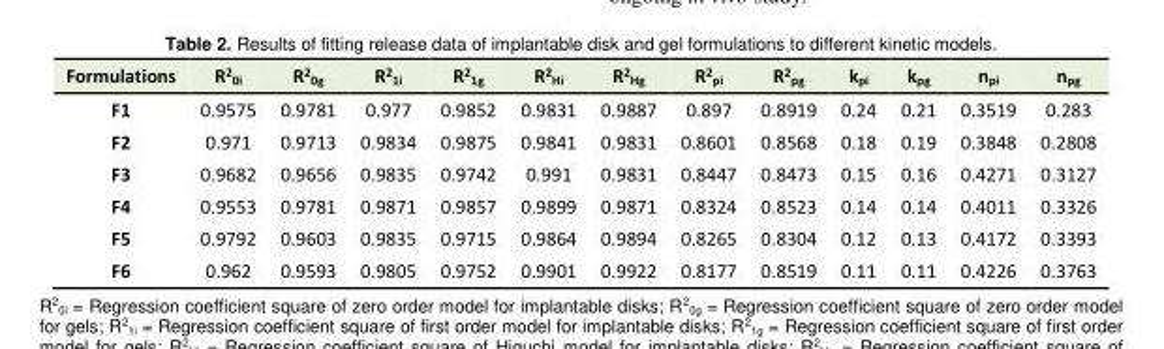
<table><tbody><tr><td>Formulations</td><td>R<sup>2</sup><sub>0i</sub></td><td>R<sup>2</sup><sub>0g</sub></td><td>R<sup>2</sup><sub>1i</sub></td><td>R<sup>2</sup><sub>1g</sub></td><td>R<sup>2</sup><sub>Hi</sub></td><td>R<sup>2</sup><sub>Hg</sub></td><td>R<sup>2</sup><sub>pi</sub></td><td>R<sup>2</sup><sub>pg</sub></td><td>k<sub>pi</sub></td><td>k<sub>pg</sub></td><td>n<sub>pi</sub></td><td>n<sub>pg</sub></td></tr><tr><td>F1</td><td>0.9575</td><td>0.9781</td><td>0.977</td><td>0.9852</td><td>0.9831</td><td>0.9887</td><td>0.897</td><td>0.8919</td><td>0.24</td><td>0.21</td><td>0.3519</td><td>0.283</td></tr><tr><td>F2</td><td>0.971</td><td>0.9713</td><td>0.9834</td><td>0.9875</td><td>0.9841</td><td>0.9831</td><td>0.8601</td><td>0.8568</td><td>0.18</td><td>0.19</td><td>0.3848</td><td>0.2808</td></tr><tr><td>F3</td><td>0.9682</td><td>0.9656</td><td>0.9835</td><td>0.9742</td><td>0.991</td><td>0.9831</td><td>0.8447</td><td>0.8473</td><td>0.15</td><td>0.16</td><td>0.4271</td><td>0.3127</td></tr><tr><td>F4</td><td>0.9553</td><td>0.9781</td><td>0.9871</td><td>0.9857</td><td>0.9899</td><td>0.9871</td><td>0.8324</td><td>0.8523</td><td>0.14</td><td>0.14</td><td>0.4011</td><td>0.3326</td></tr><tr><td>F5</td><td>0.9792</td><td>0.9603</td><td>0.9835</td><td>0.9715</td><td>0.9864</td><td>0.9894</td><td>0.8265</td><td>0.8304</td><td>0.12</td><td>0.13</td><td>0.4172</td><td>0.3393</td></tr><tr><td>F6</td><td>0.962</td><td>0.9593</td><td>0.9805</td><td>0.9752</td><td>0.9901</td><td>0.9922</td><td>0.8177</td><td>0.8519</td><td>0.11</td><td>0.11</td><td>0.4226</td><td>0.3763</td></tr></tbody></table>